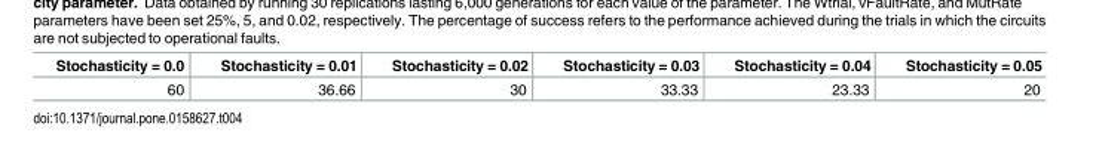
<table><thead><tr><td>Stochasticity = 0.0</td><td>Stochasticity = 0.01</td><td>Stochasticity = 0.02</td><td>Stochasticity = 0.03</td><td>Stochasticity = 0.04</td><td>Stochasticity = 0.05</td></tr></thead><tbody><tr><td>60</td><td>36.66</td><td>30</td><td>33.33</td><td>23.33</td><td>20</td></tr></tbody></table>